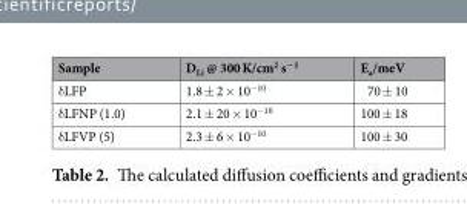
<table><thead><tr><td>Sample</td><td>D<sub>Li</sub> @ 300 K/cm<sup>2</sup> s<sup>−1</sup></td><td>E<sub>a</sub>/meV</td></tr></thead><tbody><tr><td>δLFP</td><td>1.8 ± 2 × 10<sup>−10</sup></td><td>70 ± 10</td></tr><tr><td>δLFNP (1.0)</td><td>2.1 ± 20 × 10<sup>−10</sup></td><td>100 ± 18</td></tr><tr><td>δLFVP (5)</td><td>2.3 ± 6 × 10<sup>−10</sup></td><td>100 ± 30</td></tr></tbody></table>